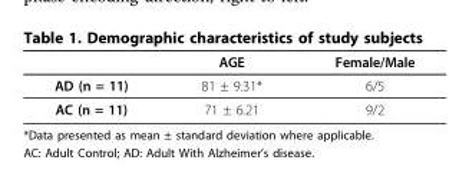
<table><thead><tr><td></td><td>AGE</td><td>Female/Male</td></tr></thead><tbody><tr><td>AD (n = 11)</td><td>81 ± 9.31*</td><td>6/5</td></tr><tr><td>AC (n = 11)</td><td>71 ± 6.21</td><td>9/2</td></tr></tbody></table>